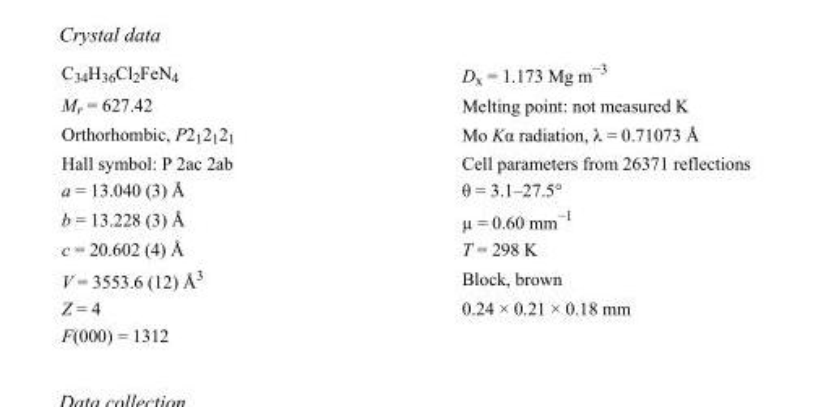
<table><tbody><tr><td>C<sub>34</sub>H<sub>36</sub>Cl<sub>2</sub>FeN<sub>4</sub></td><td>D<sub>x</sub> = 1.173 Mg m<sup>−3</sup></td></tr><tr><td>M<sub>r</sub> = 627.42</td><td>Melting point: not measured K</td></tr><tr><td>Orthorhombic, P2<sub>1</sub>2<sub>1</sub>2<sub>1</sub></td><td>Mo Kα radiation, λ = 0.71073 Å</td></tr><tr><td>Hall symbol: P 2ac 2ab</td><td>Cell parameters from 26371 reflections</td></tr><tr><td>a = 13.040 (3) Å</td><td>θ = 3.1–27.5°</td></tr><tr><td>b = 13.228 (3) Å</td><td>µ = 0.60 mm<sup>−1</sup></td></tr><tr><td>c = 20.602 (4) Å</td><td>T = 298 K</td></tr><tr><td>V = 3553.6 (12) Å<sup>3</sup></td><td>Block, brown</td></tr><tr><td>Z = 4</td><td>0.24 × 0.21 × 0.18 mm</td></tr><tr><td>F(000) = 1312</td><td></td></tr></tbody></table>